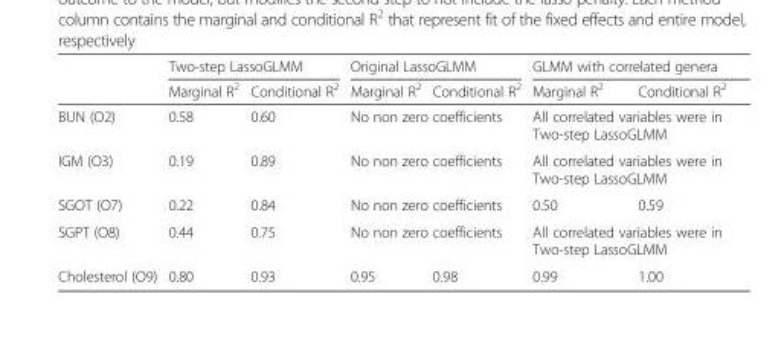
<table><thead><tr><td rowspan="2"></td><td colspan="2">Two-step LassoGLMM</td><td colspan="2">Original LassoGLMM</td><td colspan="2">GLMM with correlated genera</td></tr><tr><td>Marginal R<sup>2</sup></td><td>Conditional R<sup>2</sup></td><td>Marginal R<sup>2</sup></td><td>Conditional R<sup>2</sup></td><td>Marginal R<sup>2</sup></td><td>Conditional R<sup>2</sup></td></tr></thead><tbody><tr><td>BUN (O2)</td><td>0.58</td><td>0.60</td><td colspan="2">No non zero coefficients</td><td colspan="2">All correlated variables were in Two-step LassoGLMM</td></tr><tr><td>IGM (O3)</td><td>0.19</td><td>0.89</td><td colspan="2">No non zero coefficients</td><td colspan="2">All correlated variables were in Two-step LassoGLMM</td></tr><tr><td>SGOT (O7)</td><td>0.22</td><td>0.84</td><td colspan="2">No non zero coefficients</td><td>0.50</td><td>0.59</td></tr><tr><td>SGPT (O8)</td><td>0.44</td><td>0.75</td><td colspan="2">No non zero coefficients</td><td colspan="2">All correlated variables were in Two-step LassoGLMM</td></tr><tr><td>Cholesterol (O9)</td><td>0.80</td><td>0.93</td><td>0.95</td><td>0.98</td><td>0.99</td><td>1.00</td></tr></tbody></table>